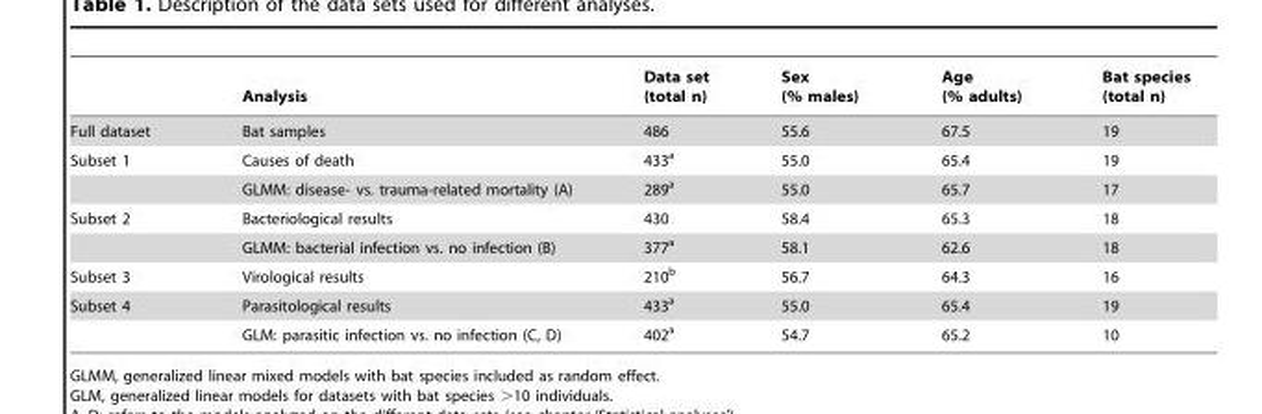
<table><thead><tr><td></td><td>Analysis</td><td>Data set (total n)</td><td>Sex (% males)</td><td>Age (% adults)</td><td>Bat species (total n)</td></tr></thead><tbody><tr><td>Full dataset</td><td>Bat samples</td><td>486</td><td>55.6</td><td>67.5</td><td>19</td></tr><tr><td rowspan="2">Subset 1</td><td>Causes of death</td><td>433<sup>a</sup></td><td>55.0</td><td>65.4</td><td>19</td></tr><tr><td>GLMM: disease- vs. trauma-related mortality (A)</td><td>289<sup>a</sup></td><td>55.0</td><td>65.7</td><td>17</td></tr><tr><td rowspan="2">Subset 2</td><td>Bacteriological results</td><td>430</td><td>58.4</td><td>65.3</td><td>18</td></tr><tr><td>GLMM: bacterial infection vs. no infection (B)</td><td>377<sup>a</sup></td><td>58.1</td><td>62.6</td><td>18</td></tr><tr><td>Subset 3</td><td>Virological results</td><td>210<sup>b</sup></td><td>56.7</td><td>64.3</td><td>16</td></tr><tr><td rowspan="2">Subset 4</td><td>Parasitological results</td><td>433<sup>a</sup></td><td>55.0</td><td>65.4</td><td>19</td></tr><tr><td>GLM: parasitic infection vs. no infection (C, D)</td><td>402<sup>a</sup></td><td>54.7</td><td>65.2</td><td>10</td></tr></tbody></table>